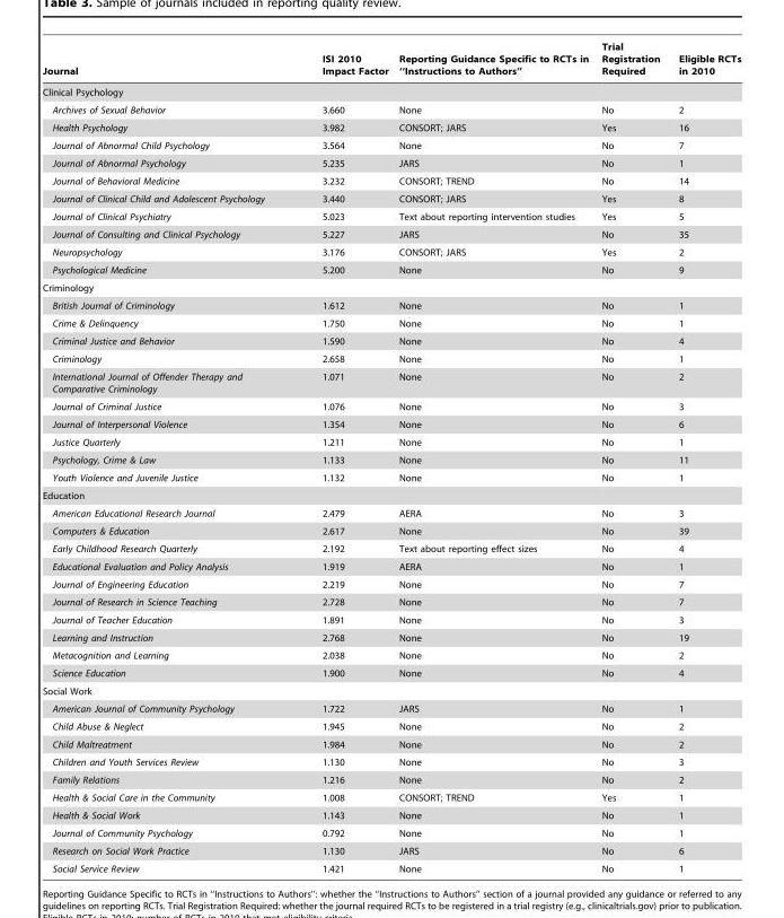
<table><thead><tr><td>Journal</td><td>ISI 2010 Impact Factor</td><td>Reporting Guidance Specific to RCTs in ‘‘Instructions to Authors’’</td><td>Trial Registration Required</td><td>Eligible RCTs in 2010</td></tr></thead><tbody><tr><td colspan="5">Clinical Psychology</td></tr><tr><td>Archives of Sexual Behavior</td><td>3.660</td><td>None</td><td>No</td><td>2</td></tr><tr><td>Health Psychology</td><td>3.982</td><td>CONSORT; JARS</td><td>Yes</td><td>16</td></tr><tr><td>Journal of Abnormal Child Psychology</td><td>3.564</td><td>None</td><td>No</td><td>7</td></tr><tr><td>Journal of Abnormal Psychology</td><td>5.235</td><td>JARS</td><td>No</td><td>1</td></tr><tr><td>Journal of Behavioral Medicine</td><td>3.232</td><td>CONSORT; TREND</td><td>No</td><td>14</td></tr><tr><td>Journal of Clinical Child and Adolescent Psychology</td><td>3.440</td><td>CONSORT; JARS</td><td>Yes</td><td>8</td></tr><tr><td>Journal of Clinical Psychiatry</td><td>5.023</td><td>Text about reporting intervention studies</td><td>Yes</td><td>5</td></tr><tr><td>Journal of Consulting and Clinical Psychology</td><td>5.227</td><td>JARS</td><td>No</td><td>35</td></tr><tr><td>Neuropsychology</td><td>3.176</td><td>CONSORT; JARS</td><td>Yes</td><td>2</td></tr><tr><td>Psychological Medicine</td><td>5.200</td><td>None</td><td>No</td><td>9</td></tr><tr><td colspan="5">Criminology</td></tr><tr><td>British Journal of Criminology</td><td>1.612</td><td>None</td><td>No</td><td>1</td></tr><tr><td>Crime &amp; Delinquency</td><td>1.750</td><td>None</td><td>No</td><td>1</td></tr><tr><td>Criminal Justice and Behavior</td><td>1.590</td><td>None</td><td>No</td><td>4</td></tr><tr><td>Criminology</td><td>2.658</td><td>None</td><td>No</td><td>1</td></tr><tr><td>International Journal of Offender Therapy and Comparative Criminology</td><td>1.071</td><td>None</td><td>No</td><td>2</td></tr><tr><td>Journal of Criminal Justice</td><td>1.076</td><td>None</td><td>No</td><td>3</td></tr><tr><td>Journal of Interpersonal Violence</td><td>1.354</td><td>None</td><td>No</td><td>6</td></tr><tr><td>Justice Quarterly</td><td>1.211</td><td>None</td><td>No</td><td>1</td></tr><tr><td>Psychology, Crime &amp; Law</td><td>1.133</td><td>None</td><td>No</td><td>11</td></tr><tr><td>Youth Violence and Juvenile Justice</td><td>1.132</td><td>None</td><td>No</td><td>1</td></tr><tr><td colspan="5">Education</td></tr><tr><td>American Educational Research Journal</td><td>2.479</td><td>AERA</td><td>No</td><td>3</td></tr><tr><td>Computers &amp; Education</td><td>2.617</td><td>None</td><td>No</td><td>39</td></tr><tr><td>Early Childhood Research Quarterly</td><td>2.192</td><td>Text about reporting effect sizes</td><td>No</td><td>4</td></tr><tr><td>Educational Evaluation and Policy Analysis</td><td>1.919</td><td>AERA</td><td>No</td><td>1</td></tr><tr><td>Journal of Engineering Education</td><td>2.219</td><td>None</td><td>No</td><td>7</td></tr><tr><td>Journal of Research in Science Teaching</td><td>2.728</td><td>None</td><td>No</td><td>7</td></tr><tr><td>Journal of Teacher Education</td><td>1.891</td><td>None</td><td>No</td><td>3</td></tr><tr><td>Learning and Instruction</td><td>2.768</td><td>None</td><td>No</td><td>19</td></tr><tr><td>Metacognition and Learning</td><td>2.038</td><td>None</td><td>No</td><td>2</td></tr><tr><td>Science Education</td><td>1.900</td><td>None</td><td>No</td><td>4</td></tr><tr><td colspan="5">Social Work</td></tr><tr><td>American Journal of Community Psychology</td><td>1.722</td><td>JARS</td><td>No</td><td>1</td></tr><tr><td>Child Abuse &amp; Neglect</td><td>1.945</td><td>None</td><td>No</td><td>2</td></tr><tr><td>Child Maltreatment</td><td>1.984</td><td>None</td><td>No</td><td>2</td></tr><tr><td>Children and Youth Services Review</td><td>1.130</td><td>None</td><td>No</td><td>3</td></tr><tr><td>Family Relations</td><td>1.216</td><td>None</td><td>No</td><td>2</td></tr><tr><td>Health &amp; Social Care in the Community</td><td>1.008</td><td>CONSORT; TREND</td><td>Yes</td><td>1</td></tr><tr><td>Health &amp; Social Work</td><td>1.143</td><td>None</td><td>No</td><td>1</td></tr><tr><td>Journal of Community Psychology</td><td>0.792</td><td>None</td><td>No</td><td>1</td></tr><tr><td>Research on Social Work Practice</td><td>1.130</td><td>JARS</td><td>No</td><td>6</td></tr><tr><td>Social Service Review</td><td>1.421</td><td>None</td><td>No</td><td>1</td></tr></tbody></table>